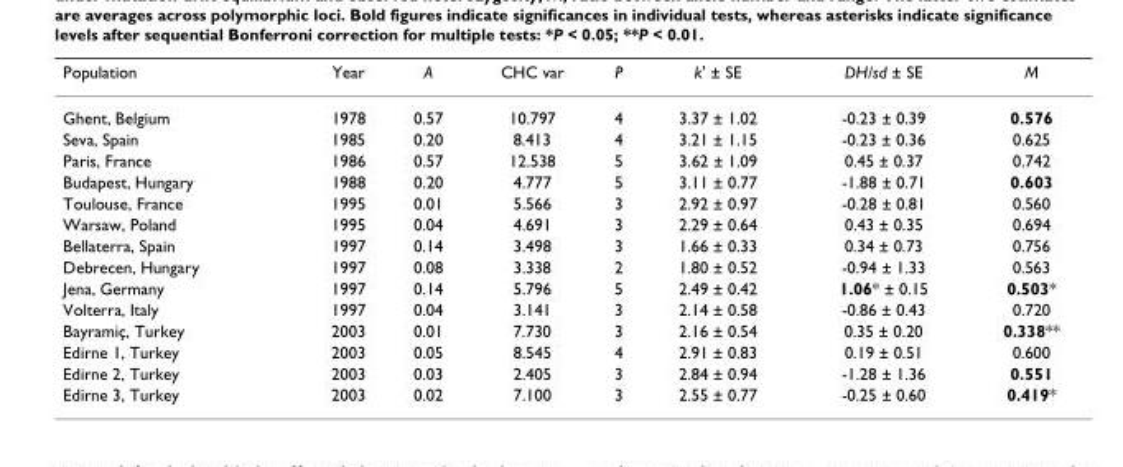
<table><thead><tr><td>Population</td><td>Year</td><td>A</td><td>CHC var</td><td>P</td><td>k&#x27; ± SE</td><td>DH/sd ± SE</td><td>M</td></tr></thead><tbody><tr><td>Ghent, Belgium</td><td>1978</td><td>0.57</td><td>10.797</td><td>4</td><td>3.37 ± 1.02</td><td>-0.23 ± 0.39</td><td>0.576</td></tr><tr><td>Seva, Spain</td><td>1985</td><td>0.20</td><td>8.413</td><td>4</td><td>3.21 ± 1.15</td><td>-0.23 ± 0.36</td><td>0.625</td></tr><tr><td>Paris, France</td><td>1986</td><td>0.57</td><td>12.538</td><td>5</td><td>3.62 ± 1.09</td><td>0.45 ± 0.37</td><td>0.742</td></tr><tr><td>Budapest, Hungary</td><td>1988</td><td>0.20</td><td>4.777</td><td>5</td><td>3.11 ± 0.77</td><td>-1.88 ± 0.71</td><td>0.603</td></tr><tr><td>Toulouse, France</td><td>1995</td><td>0.01</td><td>5.566</td><td>3</td><td>2.92 ± 0.97</td><td>-0.28 ± 0.81</td><td>0.560</td></tr><tr><td>Warsaw, Poland</td><td>1995</td><td>0.04</td><td>4.691</td><td>3</td><td>2.29 ± 0.64</td><td>0.43 ± 0.35</td><td>0.694</td></tr><tr><td>Bellaterra, Spain</td><td>1997</td><td>0.14</td><td>3.498</td><td>3</td><td>1.66 ± 0.33</td><td>0.34 ± 0.73</td><td>0.756</td></tr><tr><td>Debrecen, Hungary</td><td>1997</td><td>0.08</td><td>3.338</td><td>2</td><td>1.80 ± 0.52</td><td>-0.94 ± 1.33</td><td>0.563</td></tr><tr><td>Jena, Germany</td><td>1997</td><td>0.14</td><td>5.796</td><td>5</td><td>2.49 ± 0.42</td><td>1.06* ± 0.15</td><td>0.503*</td></tr><tr><td>Volterra, Italy</td><td>1997</td><td>0.04</td><td>3.141</td><td>3</td><td>2.14 ± 0.58</td><td>-0.86 ± 0.43</td><td>0.720</td></tr><tr><td>Bayramiç, Turkey</td><td>2003</td><td>0.01</td><td>7.730</td><td>3</td><td>2.16 ± 0.54</td><td>0.35 ± 0.20</td><td>0.338**</td></tr><tr><td>Edirne 1, Turkey</td><td>2003</td><td>0.05</td><td>8.545</td><td>4</td><td>2.91 ± 0.83</td><td>0.19 ± 0.51</td><td>0.600</td></tr><tr><td>Edirne 2, Turkey</td><td>2003</td><td>0.03</td><td>2.405</td><td>3</td><td>2.84 ± 0.94</td><td>-1.28 ± 1.36</td><td>0.551</td></tr><tr><td>Edirne 3, Turkey</td><td>2003</td><td>0.02</td><td>7.100</td><td>3</td><td>2.55 ± 0.77</td><td>-0.25 ± 0.60</td><td>0.419*</td></tr></tbody></table>